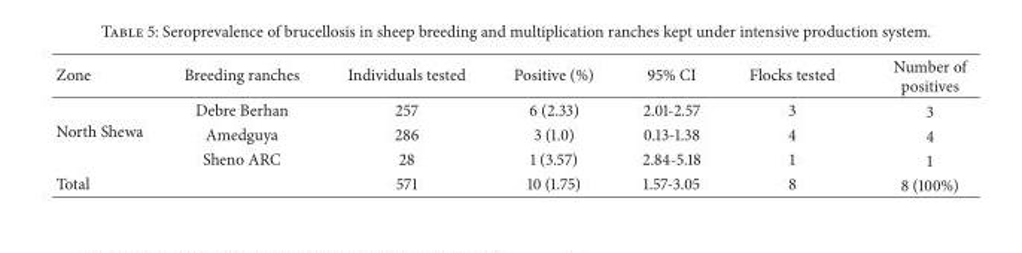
<table><thead><tr><td>Zone</td><td>Breeding ranches</td><td>Individuals tested</td><td>Positive (%)</td><td>95% CI</td><td>Flocks tested</td><td>Number of positives</td></tr></thead><tbody><tr><td rowspan="3">North Shewa</td><td>Debre Berhan</td><td>257</td><td>6 (2.33)</td><td>2.01-2.57</td><td>3</td><td>3</td></tr><tr><td>Amedguya</td><td>286</td><td>3 (1.0)</td><td>0.13-1.38</td><td>4</td><td>4</td></tr><tr><td>Sheno ARC</td><td>28</td><td>1 (3.57)</td><td>2.84-5.18</td><td>1</td><td>1</td></tr><tr><td>Total</td><td></td><td>571</td><td>10 (1.75)</td><td>1.57-3.05</td><td>8</td><td>8 (100%)</td></tr></tbody></table>